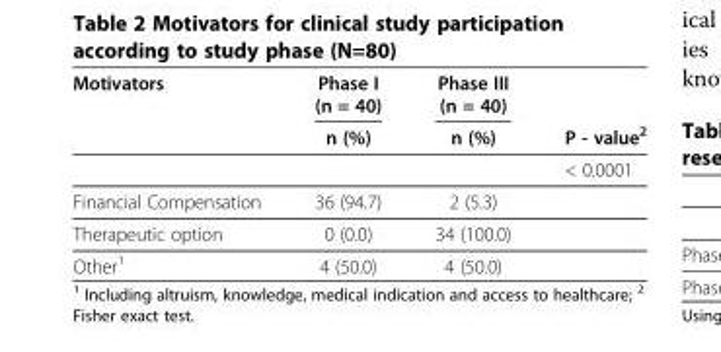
<table><thead><tr><td rowspan="2">Motivators</td><td rowspan="2">Phase I (n = 40) n (%)</td><td rowspan="2">Phase III (n = 40) n (%)</td><td rowspan="2">P - value<sup>2</sup></td></tr><tr></tr></thead><tbody><tr><td></td><td></td><td></td><td>&lt; 0.0001</td></tr><tr><td>Financial Compensation</td><td>36 (94.7)</td><td>2 (5.3)</td><td></td></tr><tr><td>Therapeutic option</td><td>0 (0.0)</td><td>34 (100.0)</td><td></td></tr><tr><td>Other<sup>1</sup></td><td>4 (50.0)</td><td>4 (50.0)</td><td></td></tr></tbody></table>